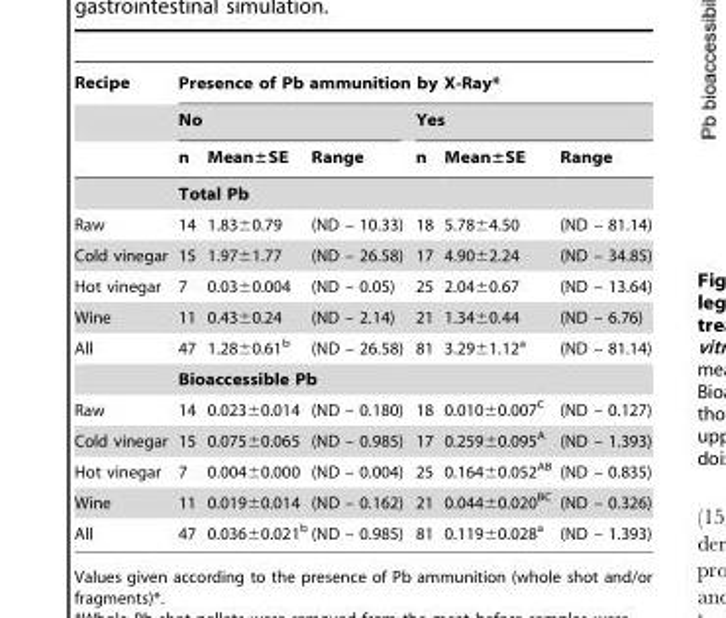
<table><thead><tr><td rowspan="3">Recipe</td><td colspan="6">Presence of Pb ammunition by X-Ray*</td></tr><tr><td colspan="3">No</td><td colspan="3">Yes</td></tr><tr><td>n</td><td>Mean±SE</td><td>Range</td><td>n</td><td>Mean±SE</td><td>Range</td></tr></thead><tbody><tr><td></td><td colspan="6">Total Pb</td></tr><tr><td>Raw</td><td>14</td><td>1.83±0.79</td><td>(ND – 10.33)</td><td>18</td><td>5.78±4.50</td><td>(ND – 81.14)</td></tr><tr><td>Cold vinegar</td><td>15</td><td>1.97±1.77</td><td>(ND – 26.58)</td><td>17</td><td>4.90±2.24</td><td>(ND – 34.85)</td></tr><tr><td>Hot vinegar</td><td>7</td><td>0.03±0.004</td><td>(ND – 0.05)</td><td>25</td><td>2.04±0.67</td><td>(ND – 13.64)</td></tr><tr><td>Wine</td><td>11</td><td>0.43±0.24</td><td>(ND – 2.14)</td><td>21</td><td>1.34±0.44</td><td>(ND – 6.76)</td></tr><tr><td rowspan="2">All</td><td>47</td><td>1.28±0.61<sup>b</sup></td><td>(ND – 26.58)</td><td>81</td><td>3.29±1.12<sup>a</sup></td><td>(ND – 81.14)</td></tr><tr><td colspan="6">Bioaccessible Pb</td></tr><tr><td>Raw</td><td>14</td><td>0.023±0.014</td><td>(ND – 0.180)</td><td>18</td><td>0.010±0.007<sup>C</sup></td><td>(ND – 0.127)</td></tr><tr><td>Cold vinegar</td><td>15</td><td>0.075±0.065</td><td>(ND – 0.985)</td><td>17</td><td>0.259±0.095<sup>A</sup></td><td>(ND – 1.393)</td></tr><tr><td>Hot vinegar</td><td>7</td><td>0.004±0.000</td><td>(ND – 0.004)</td><td>25</td><td>0.164±0.052<sup>AB</sup></td><td>(ND – 0.835)</td></tr><tr><td>Wine</td><td>11</td><td>0.019±0.014</td><td>(ND – 0.162)</td><td>21</td><td>0.044±0.020<sup>BC</sup></td><td>(ND – 0.326)</td></tr><tr><td>All</td><td>47</td><td>0.036±0.021<sup>b</sup></td><td>(ND – 0.985)</td><td>81</td><td>0.119±0.028<sup>a</sup></td><td>(ND – 1.393)</td></tr></tbody></table>